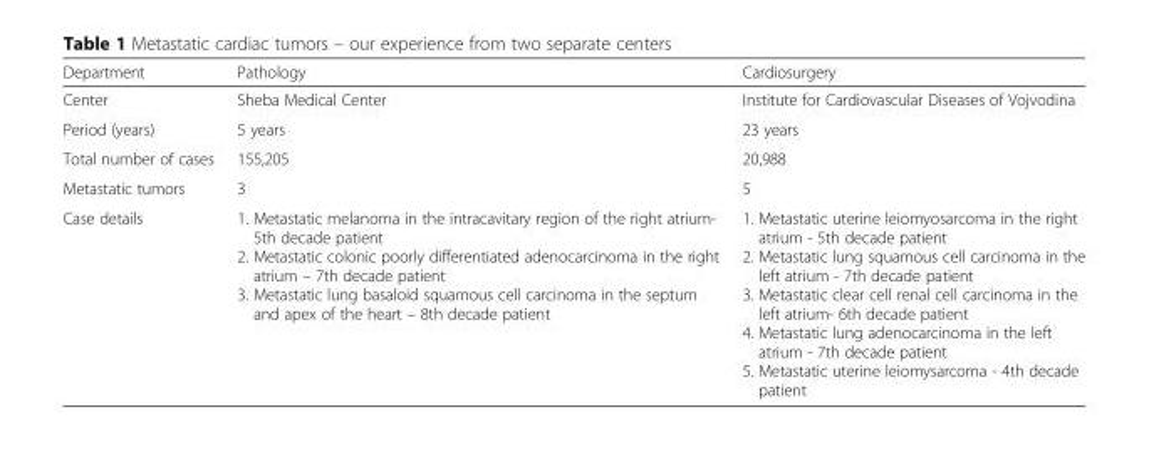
<table><thead><tr><td>Department</td><td>Pathology</td><td>Cardiosurgery</td></tr></thead><tbody><tr><td>Center</td><td>Sheba Medical Center</td><td>Institute for Cardiovascular Diseases of Vojvodina</td></tr><tr><td>Period (years)</td><td>5 years</td><td>23 years</td></tr><tr><td>Total number of cases</td><td>155,205</td><td>20,988</td></tr><tr><td>Metastatic tumors</td><td>3</td><td>5</td></tr><tr><td>Case details</td><td>1. Metastatic melanoma in the intracavitary region of the right atrium- 5th decade patient 2. Metastatic colonic poorly differentiated adenocarcinoma in the right atrium – 7th decade patient 3. Metastatic lung basaloid squamous cell carcinoma in the septum and apex of the heart – 8th decade patient</td><td>1. Metastatic uterine leiomyosarcoma in the right atrium - 5th decade patient 2. Metastatic lung squamous cell carcinoma in the left atrium - 7th decade patient 3. Metastatic clear cell renal cell carcinoma in the left atrium- 6th decade patient 4. Metastatic lung adenocarcinoma in the left atrium - 7th decade patient 5. Metastatic uterine leiomysarcoma - 4th decade patient</td></tr></tbody></table>